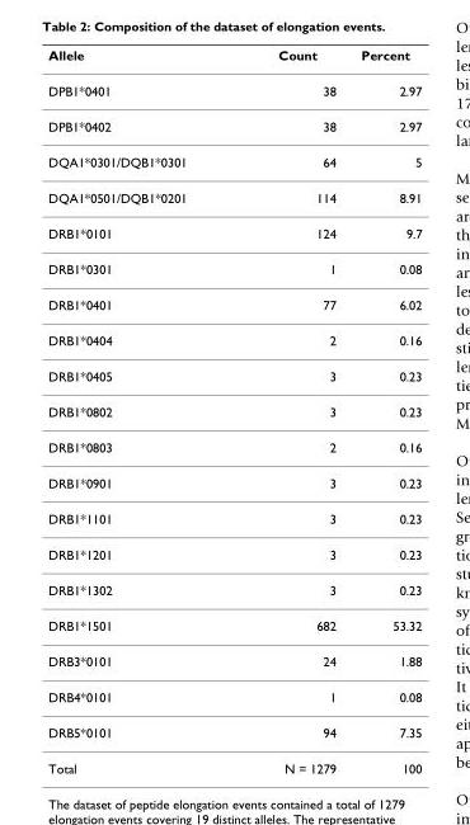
<table><thead><tr><td>Allele</td><td>Count</td><td>Percent</td></tr></thead><tbody><tr><td>DPB1*0401</td><td>38</td><td>2.97</td></tr><tr><td>DPB1*0402</td><td>38</td><td>2.97</td></tr><tr><td>DQA1*0301/DQB1*0301</td><td>64</td><td>5</td></tr><tr><td>DQA1*0501/DQB1*0201</td><td>114</td><td>8.91</td></tr><tr><td>DRB1*0101</td><td>124</td><td>9.7</td></tr><tr><td>DRB1*0301</td><td>1</td><td>0.08</td></tr><tr><td>DRB1*0401</td><td>77</td><td>6.02</td></tr><tr><td>DRB1*0404</td><td>2</td><td>0.16</td></tr><tr><td>DRB1*0405</td><td>3</td><td>0.23</td></tr><tr><td>DRB1*0802</td><td>3</td><td>0.23</td></tr><tr><td>DRB1*0803</td><td>2</td><td>0.16</td></tr><tr><td>DRB1*0901</td><td>3</td><td>0.23</td></tr><tr><td>DRB1*1101</td><td>3</td><td>0.23</td></tr><tr><td>DRB1*1201</td><td>3</td><td>0.23</td></tr><tr><td>DRB1*1302</td><td>3</td><td>0.23</td></tr><tr><td>DRB1*1501</td><td>682</td><td>53.32</td></tr><tr><td>DRB3*0101</td><td>24</td><td>1.88</td></tr><tr><td>DRB4*0101</td><td>1</td><td>0.08</td></tr><tr><td>DRB5*0101</td><td>94</td><td>7.35</td></tr><tr><td>Total</td><td>N = 1279</td><td>100</td></tr></tbody></table>